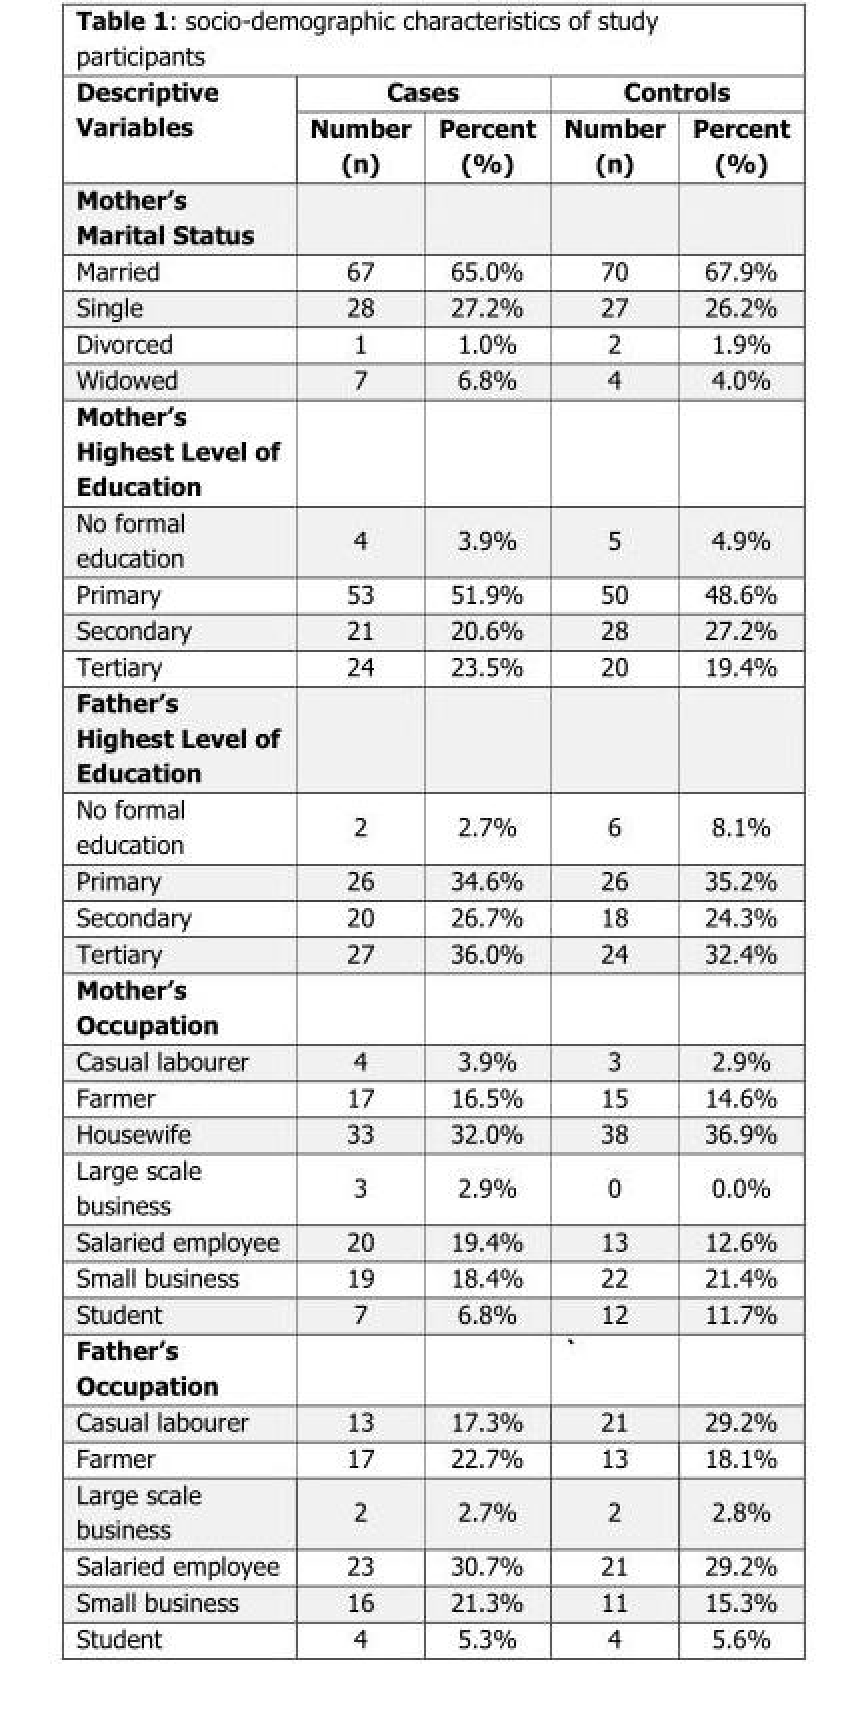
<table><thead><tr><td rowspan="2">Descriptive Variables</td><td colspan="2">Cases</td><td colspan="2">Controls</td></tr><tr><td>Number (n)</td><td>Percent (%)</td><td>Number (n)</td><td>Percent (%)</td></tr></thead><tbody><tr><td colspan="5">Mother’s Marital Status</td></tr><tr><td>Married</td><td>67</td><td>65.0%</td><td>70</td><td>67.9%</td></tr><tr><td>Single</td><td>28</td><td>27.2%</td><td>27</td><td>26.2%</td></tr><tr><td>Divorced</td><td>1</td><td>1.0%</td><td>2</td><td>1.9%</td></tr><tr><td>Widowed</td><td>7</td><td>6.8%</td><td>4</td><td>4.0%</td></tr><tr><td colspan="5">Mother’s Highest Level of Education</td></tr><tr><td>No formal education</td><td>4</td><td>3.9%</td><td>5</td><td>4.9%</td></tr><tr><td>Primary</td><td>53</td><td>51.9%</td><td>50</td><td>48.6%</td></tr><tr><td>Secondary</td><td>21</td><td>20.6%</td><td>28</td><td>27.2%</td></tr><tr><td>Tertiary</td><td>24</td><td>23.5%</td><td>20</td><td>19.4%</td></tr><tr><td colspan="5">Father’s Highest Level of Education</td></tr><tr><td>No formal education</td><td>2</td><td>2.7%</td><td>6</td><td>8.1%</td></tr><tr><td>Primary</td><td>26</td><td>34.6%</td><td>26</td><td>35.2%</td></tr><tr><td>Secondary</td><td>20</td><td>26.7%</td><td>18</td><td>24.3%</td></tr><tr><td>Tertiary</td><td>27</td><td>36.0%</td><td>24</td><td>32.4%</td></tr><tr><td colspan="5">Mother’s Occupation</td></tr><tr><td>Casual labourer</td><td>4</td><td>3.9%</td><td>3</td><td>2.9%</td></tr><tr><td>Farmer</td><td>17</td><td>16.5%</td><td>15</td><td>14.6%</td></tr><tr><td>Housewife</td><td>33</td><td>32.0%</td><td>38</td><td>36.9%</td></tr><tr><td>Large scale business</td><td>3</td><td>2.9%</td><td>0</td><td>0.0%</td></tr><tr><td>Salaried employee</td><td>20</td><td>19.4%</td><td>13</td><td>12.6%</td></tr><tr><td>Small business</td><td>19</td><td>18.4%</td><td>22</td><td>21.4%</td></tr><tr><td>Student</td><td>7</td><td>6.8%</td><td>12</td><td>11.7%</td></tr><tr><td>Father’s Occupation</td><td></td><td></td><td>`</td><td></td></tr><tr><td>Casual labourer</td><td>13</td><td>17.3%</td><td>21</td><td>29.2%</td></tr><tr><td>Farmer</td><td>17</td><td>22.7%</td><td>13</td><td>18.1%</td></tr><tr><td>Large scale business</td><td>2</td><td>2.7%</td><td>2</td><td>2.8%</td></tr><tr><td>Salaried employee</td><td>23</td><td>30.7%</td><td>21</td><td>29.2%</td></tr><tr><td>Small business</td><td>16</td><td>21.3%</td><td>11</td><td>15.3%</td></tr><tr><td>Student</td><td>4</td><td>5.3%</td><td>4</td><td>5.6%</td></tr></tbody></table>